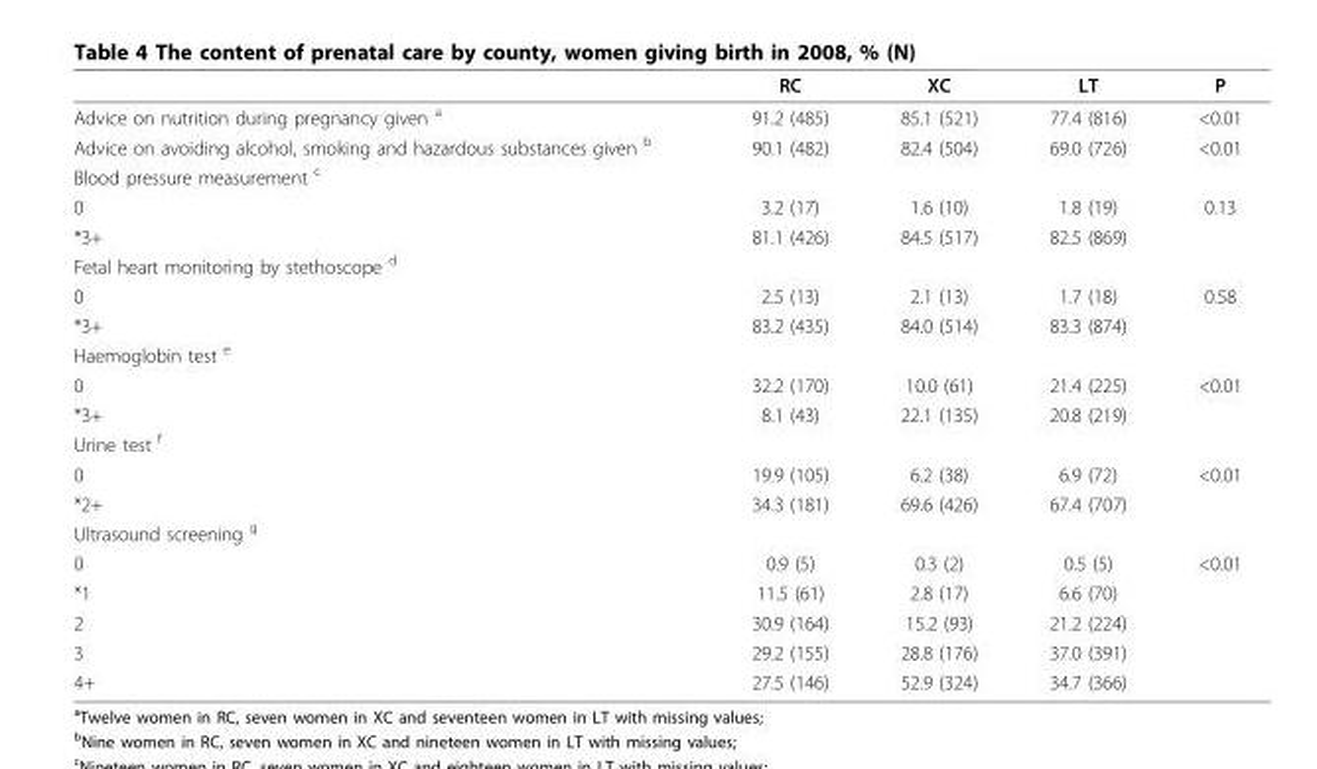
<table><thead><tr><td></td><td>RC</td><td>XC</td><td>LT</td><td>P</td></tr></thead><tbody><tr><td>Advice on nutrition during pregnancy given <sup>a</sup></td><td>91.2 (485)</td><td>85.1 (521)</td><td>77.4 (816)</td><td>&lt;0.01</td></tr><tr><td>Advice on avoiding alcohol, smoking and hazardous substances given <sup>b</sup></td><td>90.1 (482)</td><td>82.4 (504)</td><td>69.0 (726)</td><td>&lt;0.01</td></tr><tr><td colspan="5">Blood pressure measurement <sup>c</sup></td></tr><tr><td>0</td><td>3.2 (17)</td><td>1.6 (10)</td><td>1.8 (19)</td><td>0.13</td></tr><tr><td>*3+</td><td>81.1 (426)</td><td>84.5 (517)</td><td>82.5 (869)</td><td></td></tr><tr><td colspan="5">Fetal heart monitoring by stethoscope <sup>d</sup></td></tr><tr><td>0</td><td>2.5 (13)</td><td>2.1 (13)</td><td>1.7 (18)</td><td>0.58</td></tr><tr><td>*3+</td><td>83.2 (435)</td><td>84.0 (514)</td><td>83.3 (874)</td><td></td></tr><tr><td colspan="5">Haemoglobin test <sup>e</sup></td></tr><tr><td>0</td><td>32.2 (170)</td><td>10.0 (61)</td><td>21.4 (225)</td><td>&lt;0.01</td></tr><tr><td>*3+</td><td>8.1 (43)</td><td>22.1 (135)</td><td>20.8 (219)</td><td></td></tr><tr><td colspan="5">Urine test <sup>f</sup></td></tr><tr><td>0</td><td>19.9 (105)</td><td>6.2 (38)</td><td>6.9 (72)</td><td>&lt;0.01</td></tr><tr><td>*2+</td><td>34.3 (181)</td><td>69.6 (426)</td><td>67.4 (707)</td><td></td></tr><tr><td colspan="5">Ultrasound screening <sup>g</sup></td></tr><tr><td>0</td><td>0.9 (5)</td><td>0.3 (2)</td><td>0.5 (5)</td><td>&lt;0.01</td></tr><tr><td>*1</td><td>11.5 (61)</td><td>2.8 (17)</td><td>6.6 (70)</td><td></td></tr><tr><td>2</td><td>30.9 (164)</td><td>15.2 (93)</td><td>21.2 (224)</td><td></td></tr><tr><td>3</td><td>29.2 (155)</td><td>28.8 (176)</td><td>37.0 (391)</td><td></td></tr><tr><td>4+</td><td>27.5 (146)</td><td>52.9 (324)</td><td>34.7 (366)</td><td></td></tr></tbody></table>